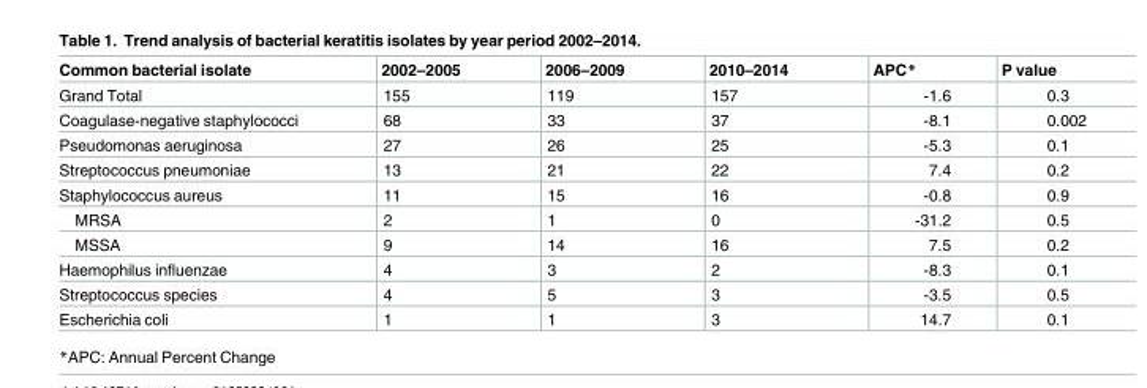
<table><thead><tr><td>Common bacterial isolate</td><td>2002–2005</td><td>2006–2009</td><td>2010–2014</td><td>APC*</td><td>P value</td></tr></thead><tbody><tr><td>Grand Total</td><td>155</td><td>119</td><td>157</td><td>-1.6</td><td>0.3</td></tr><tr><td>Coagulase-negative staphylococci</td><td>68</td><td>33</td><td>37</td><td>-8.1</td><td>0.002</td></tr><tr><td>Pseudomonas aeruginosa</td><td>27</td><td>26</td><td>25</td><td>-5.3</td><td>0.1</td></tr><tr><td>Streptococcus pneumoniae</td><td>13</td><td>21</td><td>22</td><td>7.4</td><td>0.2</td></tr><tr><td>Staphylococcus aureus</td><td>11</td><td>15</td><td>16</td><td>-0.8</td><td>0.9</td></tr><tr><td>MRSA</td><td>2</td><td>1</td><td>0</td><td>-31.2</td><td>0.5</td></tr><tr><td>MSSA</td><td>9</td><td>14</td><td>16</td><td>7.5</td><td>0.2</td></tr><tr><td>Haemophilus influenzae</td><td>4</td><td>3</td><td>2</td><td>-8.3</td><td>0.1</td></tr><tr><td>Streptococcus species</td><td>4</td><td>5</td><td>3</td><td>-3.5</td><td>0.5</td></tr><tr><td>Escherichia coli</td><td>1</td><td>1</td><td>3</td><td>14.7</td><td>0.1</td></tr></tbody></table>